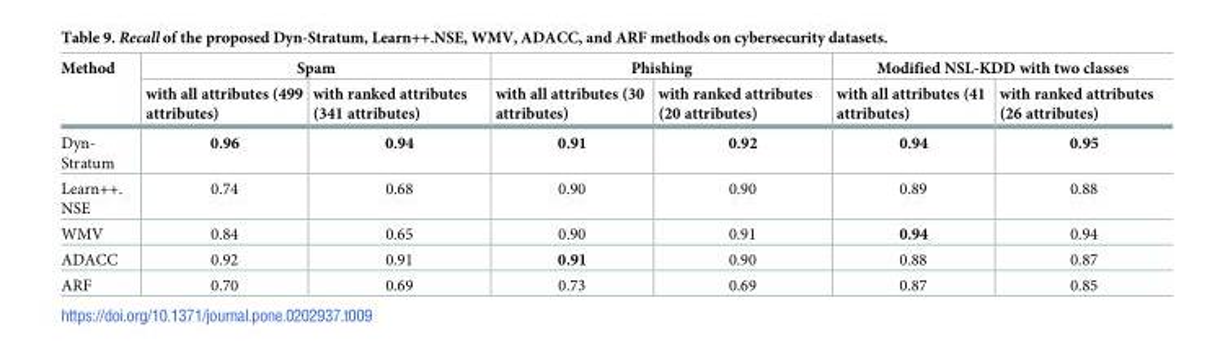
<table><thead><tr><td rowspan="2">Method</td><td colspan="2">Spam</td><td colspan="2">Phishing</td><td colspan="2">Modified NSL-KDD with two classes</td></tr><tr><td>with all attributes (499 attributes)</td><td>with ranked attributes (341 attributes)</td><td>with all attributes (30 attributes)</td><td>with ranked attributes (20 attributes)</td><td>with all attributes (41 attributes)</td><td>with ranked attributes (26 attributes)</td></tr></thead><tbody><tr><td>Dyn- Stratum</td><td>0.96</td><td>0.94</td><td>0.91</td><td>0.92</td><td>0.94</td><td>0.95</td></tr><tr><td>Learn++. NSE</td><td>0.74</td><td>0.68</td><td>0.90</td><td>0.90</td><td>0.89</td><td>0.88</td></tr><tr><td>WMV</td><td>0.84</td><td>0.65</td><td>0.90</td><td>0.91</td><td>0.94</td><td>0.94</td></tr><tr><td>ADACC</td><td>0.92</td><td>0.91</td><td>0.91</td><td>0.90</td><td>0.88</td><td>0.87</td></tr><tr><td>ARF</td><td>0.70</td><td>0.69</td><td>0.73</td><td>0.69</td><td>0.87</td><td>0.85</td></tr></tbody></table>